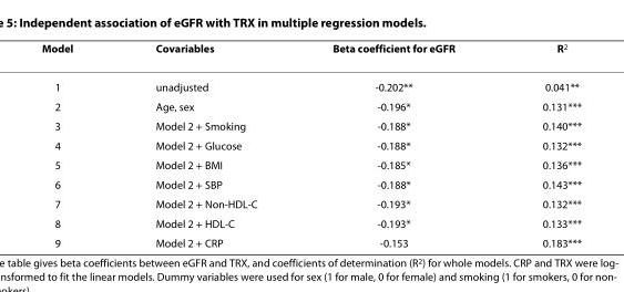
<table><thead><tr><td>Model</td><td>Covariables</td><td>Beta coefficient for eGFR</td><td>R<sup>2</sup></td></tr></thead><tbody><tr><td>1</td><td>unadjusted</td><td>-0.202**</td><td>0.041**</td></tr><tr><td>2</td><td>Age, sex</td><td>-0.196*</td><td>0.131***</td></tr><tr><td>3</td><td>Model 2 + Smoking</td><td>-0.188*</td><td>0.140***</td></tr><tr><td>4</td><td>Model 2 + Glucose</td><td>-0.188*</td><td>0.132***</td></tr><tr><td>5</td><td>Model 2 + BMI</td><td>-0.185*</td><td>0.136***</td></tr><tr><td>6</td><td>Model 2 + SBP</td><td>-0.188*</td><td>0.143***</td></tr><tr><td>7</td><td>Model 2 + Non-HDL-C</td><td>-0.193*</td><td>0.132***</td></tr><tr><td>8</td><td>Model 2 + HDL-C</td><td>-0.193*</td><td>0.133***</td></tr><tr><td>9</td><td>Model 2 + CRP</td><td>-0.153</td><td>0.183***</td></tr></tbody></table>